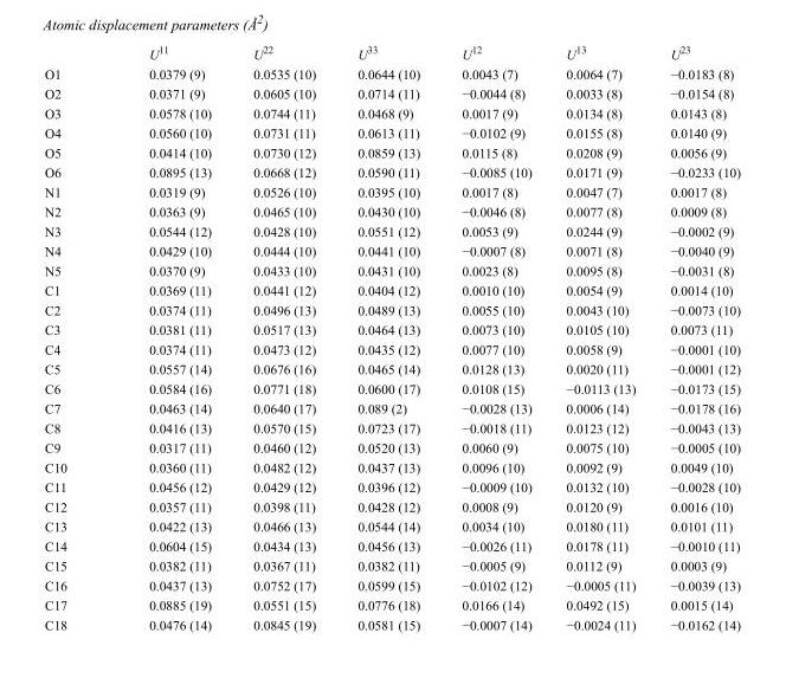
<table><thead><tr><td></td><td>U<sup>11</sup></td><td>U<sup>22</sup></td><td>U<sup>33</sup></td><td>U<sup>12</sup></td><td>U<sup>13</sup></td><td>U<sup>23</sup></td></tr></thead><tbody><tr><td>O1</td><td>0.0379 (9)</td><td>0.0535 (10)</td><td>0.0644 (10)</td><td>0.0043 (7)</td><td>0.0064 (7)</td><td>−0.0183 (8)</td></tr><tr><td>O2</td><td>0.0371 (9)</td><td>0.0605 (10)</td><td>0.0714 (11)</td><td>−0.0044 (8)</td><td>0.0033 (8)</td><td>−0.0154 (8)</td></tr><tr><td>O3</td><td>0.0578 (10)</td><td>0.0744 (11)</td><td>0.0468 (9)</td><td>0.0017 (9)</td><td>0.0134 (8)</td><td>0.0143 (8)</td></tr><tr><td>O4</td><td>0.0560 (10)</td><td>0.0731 (11)</td><td>0.0613 (11)</td><td>−0.0102 (9)</td><td>0.0155 (8)</td><td>0.0140 (9)</td></tr><tr><td>O5</td><td>0.0414 (10)</td><td>0.0730 (12)</td><td>0.0859 (13)</td><td>0.0115 (8)</td><td>0.0208 (9)</td><td>0.0056 (9)</td></tr><tr><td>O6</td><td>0.0895 (13)</td><td>0.0668 (12)</td><td>0.0590 (11)</td><td>−0.0085 (10)</td><td>0.0171 (9)</td><td>−0.0233 (10)</td></tr><tr><td>N1</td><td>0.0319 (9)</td><td>0.0526 (10)</td><td>0.0395 (10)</td><td>0.0017 (8)</td><td>0.0047 (7)</td><td>0.0017 (8)</td></tr><tr><td>N2</td><td>0.0363 (9)</td><td>0.0465 (10)</td><td>0.0430 (10)</td><td>−0.0046 (8)</td><td>0.0077 (8)</td><td>0.0009 (8)</td></tr><tr><td>N3</td><td>0.0544 (12)</td><td>0.0428 (10)</td><td>0.0551 (12)</td><td>0.0053 (9)</td><td>0.0244 (9)</td><td>−0.0002 (9)</td></tr><tr><td>N4</td><td>0.0429 (10)</td><td>0.0444 (10)</td><td>0.0441 (10)</td><td>−0.0007 (8)</td><td>0.0071 (8)</td><td>−0.0040 (9)</td></tr><tr><td>N5</td><td>0.0370 (9)</td><td>0.0433 (10)</td><td>0.0431 (10)</td><td>0.0023 (8)</td><td>0.0095 (8)</td><td>−0.0031 (8)</td></tr><tr><td>C1</td><td>0.0369 (11)</td><td>0.0441 (12)</td><td>0.0404 (12)</td><td>0.0010 (10)</td><td>0.0054 (9)</td><td>0.0014 (10)</td></tr><tr><td>C2</td><td>0.0374 (11)</td><td>0.0496 (13)</td><td>0.0489 (13)</td><td>0.0055 (10)</td><td>0.0043 (10)</td><td>−0.0073 (10)</td></tr><tr><td>C3</td><td>0.0381 (11)</td><td>0.0517 (13)</td><td>0.0464 (13)</td><td>0.0073 (10)</td><td>0.0105 (10)</td><td>0.0073 (11)</td></tr><tr><td>C4</td><td>0.0374 (11)</td><td>0.0473 (12)</td><td>0.0435 (12)</td><td>0.0077 (10)</td><td>0.0058 (9)</td><td>−0.0001 (10)</td></tr><tr><td>C5</td><td>0.0557 (14)</td><td>0.0676 (16)</td><td>0.0465 (14)</td><td>0.0128 (13)</td><td>0.0020 (11)</td><td>−0.0001 (12)</td></tr><tr><td>C6</td><td>0.0584 (16)</td><td>0.0771 (18)</td><td>0.0600 (17)</td><td>0.0108 (15)</td><td>−0.0113 (13)</td><td>−0.0173 (15)</td></tr><tr><td>C7</td><td>0.0463 (14)</td><td>0.0640 (17)</td><td>0.089 (2)</td><td>−0.0028 (13)</td><td>0.0006 (14)</td><td>−0.0178 (16)</td></tr><tr><td>C8</td><td>0.0416 (13)</td><td>0.0570 (15)</td><td>0.0723 (17)</td><td>−0.0018 (11)</td><td>0.0123 (12)</td><td>−0.0043 (13)</td></tr><tr><td>C9</td><td>0.0317 (11)</td><td>0.0460 (12)</td><td>0.0520 (13)</td><td>0.0060 (9)</td><td>0.0075 (10)</td><td>−0.0005 (10)</td></tr><tr><td>C10</td><td>0.0360 (11)</td><td>0.0482 (12)</td><td>0.0437 (13)</td><td>0.0096 (10)</td><td>0.0092 (9)</td><td>0.0049 (10)</td></tr><tr><td>C11</td><td>0.0456 (12)</td><td>0.0429 (12)</td><td>0.0396 (12)</td><td>−0.0009 (10)</td><td>0.0132 (10)</td><td>−0.0028 (10)</td></tr><tr><td>C12</td><td>0.0357 (11)</td><td>0.0398 (11)</td><td>0.0428 (12)</td><td>0.0008 (9)</td><td>0.0120 (9)</td><td>0.0016 (10)</td></tr><tr><td>C13</td><td>0.0422 (13)</td><td>0.0466 (13)</td><td>0.0544 (14)</td><td>0.0034 (10)</td><td>0.0180 (11)</td><td>0.0101 (11)</td></tr><tr><td>C14</td><td>0.0604 (15)</td><td>0.0434 (13)</td><td>0.0456 (13)</td><td>−0.0026 (11)</td><td>0.0178 (11)</td><td>−0.0010 (11)</td></tr><tr><td>C15</td><td>0.0382 (11)</td><td>0.0367 (11)</td><td>0.0382 (11)</td><td>−0.0005 (9)</td><td>0.0112 (9)</td><td>0.0003 (9)</td></tr><tr><td>C16</td><td>0.0437 (13)</td><td>0.0752 (17)</td><td>0.0599 (15)</td><td>−0.0102 (12)</td><td>−0.0005 (11)</td><td>−0.0039 (13)</td></tr><tr><td>C17</td><td>0.0885 (19)</td><td>0.0551 (15)</td><td>0.0776 (18)</td><td>0.0166 (14)</td><td>0.0492 (15)</td><td>0.0015 (14)</td></tr><tr><td>C18</td><td>0.0476 (14)</td><td>0.0845 (19)</td><td>0.0581 (15)</td><td>−0.0007 (14)</td><td>−0.0024 (11)</td><td>−0.0162 (14)</td></tr></tbody></table>